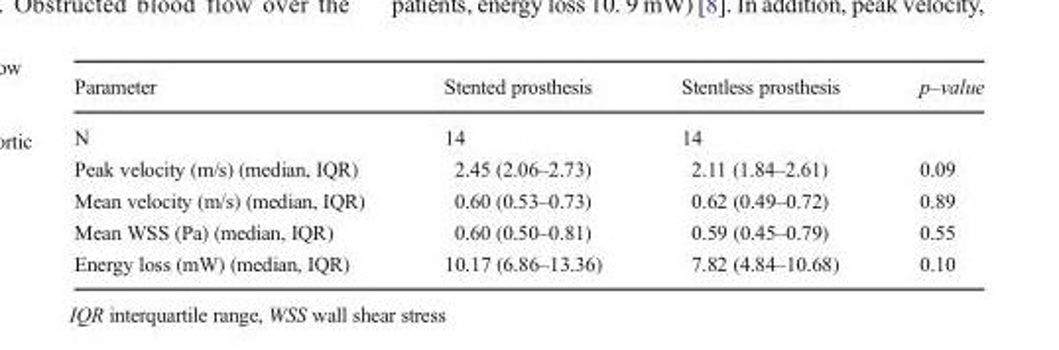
<table><thead><tr><td>Parameter</td><td>Stented prosthesis</td><td>Stentless prosthesis</td><td>p–value</td></tr></thead><tbody><tr><td>N</td><td>14</td><td>14</td><td></td></tr><tr><td>Peak velocity (m/s) (median, IQR)</td><td>2.45 (2.06–2.73)</td><td>2.11 (1.84–2.61)</td><td>0.09</td></tr><tr><td>Mean velocity (m/s) (median, IQR)</td><td>0.60 (0.53–0.73)</td><td>0.62 (0.49–0.72)</td><td>0.89</td></tr><tr><td>Mean WSS (Pa) (median, IQR)</td><td>0.60 (0.50–0.81)</td><td>0.59 (0.45–0.79)</td><td>0.55</td></tr><tr><td>Energy loss (mW) (median, IQR)</td><td>10.17 (6.86–13.36)</td><td>7.82 (4.84–10.68)</td><td>0.10</td></tr></tbody></table>